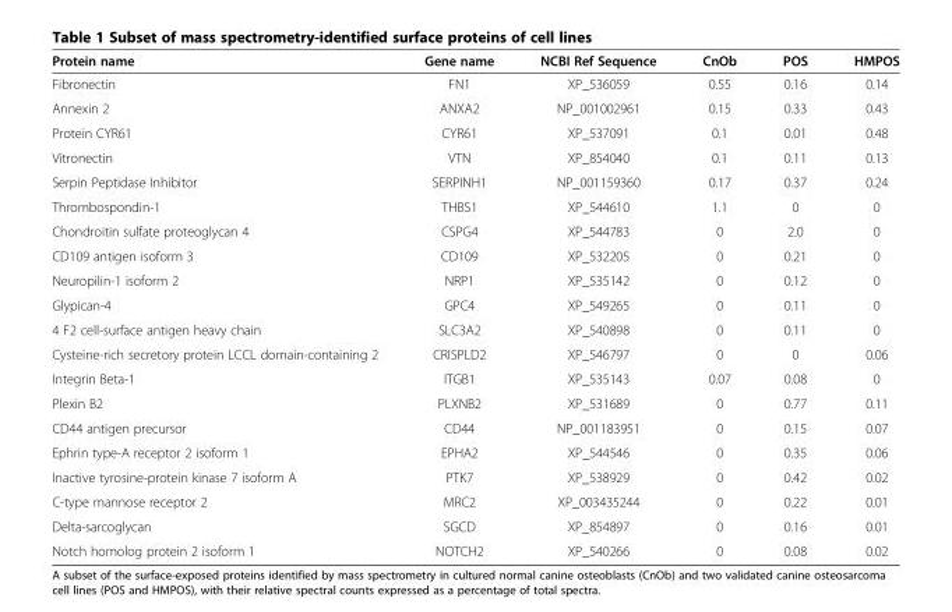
<table><thead><tr><td>Protein name</td><td>Gene name</td><td>NCBI Ref Sequence</td><td>CnOb</td><td>POS</td><td>HMPOS</td></tr></thead><tbody><tr><td>Fibronectin</td><td>FN1</td><td>XP_536059</td><td>0.55</td><td>0.16</td><td>0.14</td></tr><tr><td>Annexin 2</td><td>ANXA2</td><td>NP_001002961</td><td>0.15</td><td>0.33</td><td>0.43</td></tr><tr><td>Protein CYR61</td><td>CYR61</td><td>XP_537091</td><td>0.1</td><td>0.01</td><td>0.48</td></tr><tr><td>Vitronectin</td><td>VTN</td><td>XP_854040</td><td>0.1</td><td>0.11</td><td>0.13</td></tr><tr><td>Serpin Peptidase Inhibitor</td><td>SERPINH1</td><td>NP_001159360</td><td>0.17</td><td>0.37</td><td>0.24</td></tr><tr><td>Thrombospondin-1</td><td>THBS1</td><td>XP_544610</td><td>1.1</td><td>0</td><td>0</td></tr><tr><td>Chondroitin sulfate proteoglycan 4</td><td>CSPG4</td><td>XP_544783</td><td>0</td><td>2.0</td><td>0</td></tr><tr><td>CD109 antigen isoform 3</td><td>CD109</td><td>XP_532205</td><td>0</td><td>0.21</td><td>0</td></tr><tr><td>Neuropilin-1 isoform 2</td><td>NRP1</td><td>XP_535142</td><td>0</td><td>0.12</td><td>0</td></tr><tr><td>Glypican-4</td><td>GPC4</td><td>XP_549265</td><td>0</td><td>0.11</td><td>0</td></tr><tr><td>4 F2 cell-surface antigen heavy chain</td><td>SLC3A2</td><td>XP_540898</td><td>0</td><td>0.11</td><td>0</td></tr><tr><td>Cysteine-rich secretory protein LCCL domain-containing 2</td><td>CRISPLD2</td><td>XP_546797</td><td>0</td><td>0</td><td>0.06</td></tr><tr><td>Integrin Beta-1</td><td>ITGB1</td><td>XP_535143</td><td>0.07</td><td>0.08</td><td>0</td></tr><tr><td>Plexin B2</td><td>PLXNB2</td><td>XP_531689</td><td>0</td><td>0.77</td><td>0.11</td></tr><tr><td>CD44 antigen precursor</td><td>CD44</td><td>NP_001183951</td><td>0</td><td>0.15</td><td>0.07</td></tr><tr><td>Ephrin type-A receptor 2 isoform 1</td><td>EPHA2</td><td>XP_544546</td><td>0</td><td>0.35</td><td>0.06</td></tr><tr><td>Inactive tyrosine-protein kinase 7 isoform A</td><td>PTK7</td><td>XP_538929</td><td>0</td><td>0.42</td><td>0.02</td></tr><tr><td>C-type mannose receptor 2</td><td>MRC2</td><td>XP_003435244</td><td>0</td><td>0.22</td><td>0.01</td></tr><tr><td>Delta-sarcoglycan</td><td>SGCD</td><td>XP_854897</td><td>0</td><td>0.16</td><td>0.01</td></tr><tr><td>Notch homolog protein 2 isoform 1</td><td>NOTCH2</td><td>XP_540266</td><td>0</td><td>0.08</td><td>0.02</td></tr></tbody></table>